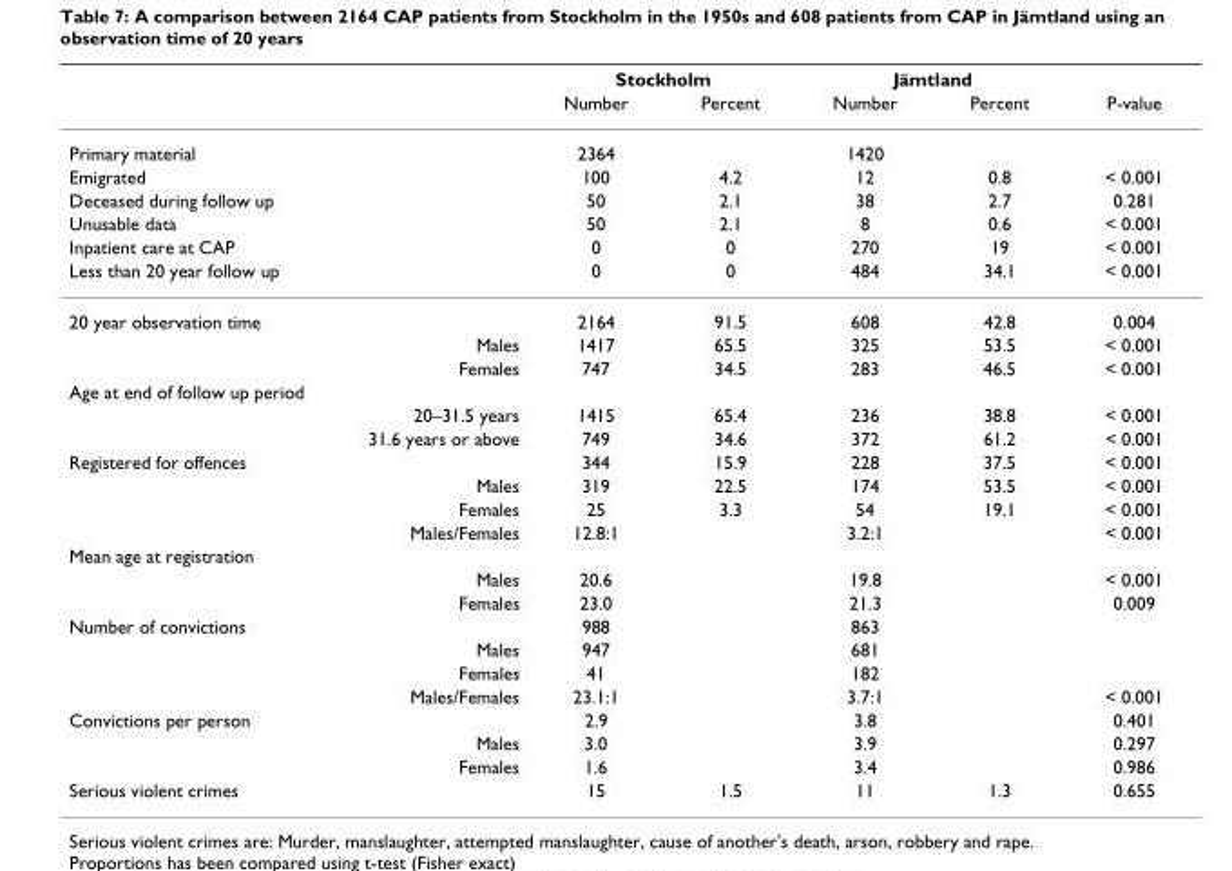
<table><thead><tr><td rowspan="2"></td><td colspan="2">Stockholm</td><td colspan="2">Jämtland</td><td rowspan="2">P-value</td></tr><tr><td>Number</td><td>Percent</td><td>Number</td><td>Percent</td></tr></thead><tbody><tr><td>Primary material</td><td>2364</td><td></td><td>1420</td><td></td><td></td></tr><tr><td>Emigrated</td><td>100</td><td>4.2</td><td>12</td><td>0.8</td><td>&lt; 0.001</td></tr><tr><td>Deceased during follow up</td><td>50</td><td>2.1</td><td>38</td><td>2.7</td><td>0.281</td></tr><tr><td>Unusable data</td><td>50</td><td>2.1</td><td>8</td><td>0.6</td><td>&lt; 0.001</td></tr><tr><td>Inpatient care at CAP</td><td>0</td><td>0</td><td>270</td><td>19</td><td>&lt; 0.001</td></tr><tr><td>Less than 20 year follow up</td><td>0</td><td>0</td><td>484</td><td>34.1</td><td>&lt; 0.001</td></tr><tr><td>20 year observation time</td><td>2164</td><td>91.5</td><td>608</td><td>42.8</td><td>0.004</td></tr><tr><td>Males</td><td>1417</td><td>65.5</td><td>325</td><td>53.5</td><td>&lt; 0.001</td></tr><tr><td>Females</td><td>747</td><td>34.5</td><td>283</td><td>46.5</td><td>&lt; 0.001</td></tr><tr><td colspan="6">Age at end of follow up period</td></tr><tr><td>20–31.5 years</td><td>1415</td><td>65.4</td><td>236</td><td>38.8</td><td>&lt; 0.001</td></tr><tr><td>31.6 years or above</td><td>749</td><td>34.6</td><td>372</td><td>61.2</td><td>&lt; 0.001</td></tr><tr><td>Registered for offences</td><td>344</td><td>15.9</td><td>228</td><td>37.5</td><td>&lt; 0.001</td></tr><tr><td>Males</td><td>319</td><td>22.5</td><td>174</td><td>53.5</td><td>&lt; 0.001</td></tr><tr><td>Females</td><td>25</td><td>3.3</td><td>54</td><td>19.1</td><td>&lt; 0.001</td></tr><tr><td>Males/Females</td><td>12.8:1</td><td></td><td>3.2:1</td><td></td><td>&lt; 0.001</td></tr><tr><td colspan="6">Mean age at registration</td></tr><tr><td>Males</td><td>20.6</td><td></td><td>19.8</td><td></td><td>&lt; 0.001</td></tr><tr><td>Females</td><td>23.0</td><td></td><td>21.3</td><td></td><td>0.009</td></tr><tr><td>Number of convictions</td><td>988</td><td></td><td>863</td><td></td><td></td></tr><tr><td>Males</td><td>947</td><td></td><td>681</td><td></td><td></td></tr><tr><td>Females</td><td>41</td><td></td><td>182</td><td></td><td></td></tr><tr><td>Males/Females</td><td>23.1:1</td><td></td><td>3.7:1</td><td></td><td>&lt; 0.001</td></tr><tr><td>Convictions per person</td><td>2.9</td><td></td><td>3.8</td><td></td><td>0.401</td></tr><tr><td>Males</td><td>3.0</td><td></td><td>3.9</td><td></td><td>0.297</td></tr><tr><td>Females</td><td>1.6</td><td></td><td>3.4</td><td></td><td>0.986</td></tr><tr><td>Serious violent crimes</td><td>15</td><td>1.5</td><td>11</td><td>1.3</td><td>0.655</td></tr></tbody></table>